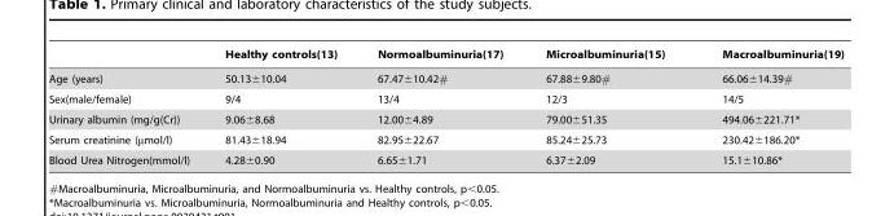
<table><thead><tr><td></td><td>Healthy controls(13)</td><td>Normoalbuminuria(17)</td><td>Microalbuminuria(15)</td><td>Macroalbuminuria(19)</td></tr></thead><tbody><tr><td>Age (years)</td><td>50.13±10.04</td><td>67.47±10.42#</td><td>67.88±9.80#</td><td>66.06±14.39#</td></tr><tr><td>Sex(male/female)</td><td>9/4</td><td>13/4</td><td>12/3</td><td>14/5</td></tr><tr><td>Urinary albumin (mg/g(Cr))</td><td>9.06±8.68</td><td>12.00±4.89</td><td>79.00±51.35</td><td>494.06±221.71*</td></tr><tr><td>Serum creatinine (µmol/l)</td><td>81.43±18.94</td><td>82.95±22.67</td><td>85.24±25.73</td><td>230.42±186.20*</td></tr><tr><td>Blood Urea Nitrogen(mmol/l)</td><td>4.28±0.90</td><td>6.65±1.71</td><td>6.37±2.09</td><td>15.1±10.86*</td></tr></tbody></table>